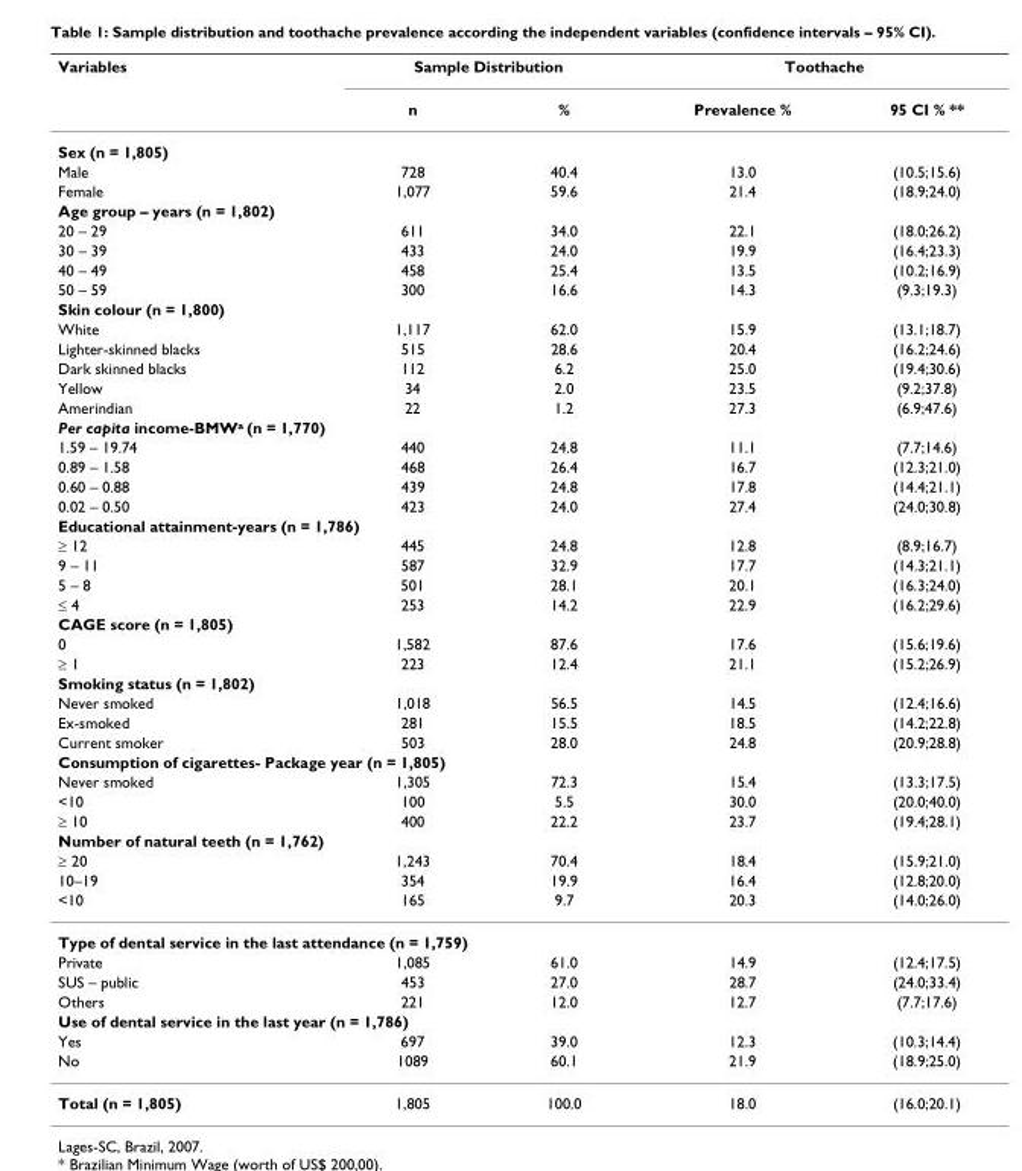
<table><thead><tr><td rowspan="2">Variables</td><td colspan="2">Sample Distribution</td><td colspan="2">Toothache</td></tr><tr><td>n</td><td>%</td><td>Prevalence %</td><td>95 CI % **</td></tr></thead><tbody><tr><td colspan="5">Sex (n = 1,805)</td></tr><tr><td>Male</td><td>728</td><td>40.4</td><td>13.0</td><td>(10.5;15.6)</td></tr><tr><td>Female</td><td>1,077</td><td>59.6</td><td>21.4</td><td>(18.9;24.0)</td></tr><tr><td colspan="5">Age group – years (n = 1,802)</td></tr><tr><td>20 – 29</td><td>611</td><td>34.0</td><td>22.1</td><td>(18.0;26.2)</td></tr><tr><td>30 – 39</td><td>433</td><td>24.0</td><td>19.9</td><td>(16.4;23.3)</td></tr><tr><td>40 – 49</td><td>458</td><td>25.4</td><td>13.5</td><td>(10.2;16.9)</td></tr><tr><td>50 – 59</td><td>300</td><td>16.6</td><td>14.3</td><td>(9.3;19.3)</td></tr><tr><td colspan="5">Skin colour (n = 1,800)</td></tr><tr><td>White</td><td>1,117</td><td>62.0</td><td>15.9</td><td>(13.1;18.7)</td></tr><tr><td>Lighter-skinned blacks</td><td>515</td><td>28.6</td><td>20.4</td><td>(16.2;24.6)</td></tr><tr><td>Dark skinned blacks</td><td>112</td><td>6.2</td><td>25.0</td><td>(19.4;30.6)</td></tr><tr><td>Yellow</td><td>34</td><td>2.0</td><td>23.5</td><td>(9.2;37.8)</td></tr><tr><td>Amerindian</td><td>22</td><td>1.2</td><td>27.3</td><td>(6.9;47.6)</td></tr><tr><td colspan="5">Per capita income-BMW<sup>a</sup> (n = 1,770)</td></tr><tr><td>1.59 – 19.74</td><td>440</td><td>24.8</td><td>11.1</td><td>(7.7;14.6)</td></tr><tr><td>0.89 – 1.58</td><td>468</td><td>26.4</td><td>16.7</td><td>(12.3;21.0)</td></tr><tr><td>0.60 – 0.88</td><td>439</td><td>24.8</td><td>17.8</td><td>(14.4;21.1)</td></tr><tr><td>0.02 – 0.50</td><td>423</td><td>24.0</td><td>27.4</td><td>(24.0;30.8)</td></tr><tr><td colspan="5">Educational attainment-years (n = 1,786)</td></tr><tr><td>≥ 12</td><td>445</td><td>24.8</td><td>12.8</td><td>(8.9;16.7)</td></tr><tr><td>9 – 11</td><td>587</td><td>32.9</td><td>17.7</td><td>(14.3;21.1)</td></tr><tr><td>5 – 8</td><td>501</td><td>28.1</td><td>20.1</td><td>(16.3;24.0)</td></tr><tr><td>≤ 4</td><td>253</td><td>14.2</td><td>22.9</td><td>(16.2;29.6)</td></tr><tr><td colspan="5">CAGE score (n = 1,805)</td></tr><tr><td>0</td><td>1,582</td><td>87.6</td><td>17.6</td><td>(15.6;19.6)</td></tr><tr><td>≥ 1</td><td>223</td><td>12.4</td><td>21.1</td><td>(15.2;26.9)</td></tr><tr><td colspan="5">Smoking status (n = 1,802)</td></tr><tr><td>Never smoked</td><td>1,018</td><td>56.5</td><td>14.5</td><td>(12.4;16.6)</td></tr><tr><td>Ex-smoked</td><td>281</td><td>15.5</td><td>18.5</td><td>(14.2;22.8)</td></tr><tr><td>Current smoker</td><td>503</td><td>28.0</td><td>24.8</td><td>(20.9;28.8)</td></tr><tr><td colspan="5">Consumption of cigarettes- Package year (n = 1,805)</td></tr><tr><td>Never smoked</td><td>1,305</td><td>72.3</td><td>15.4</td><td>(13.3;17.5)</td></tr><tr><td>&lt;10</td><td>100</td><td>5.5</td><td>30.0</td><td>(20.0;40.0)</td></tr><tr><td>≥ 10</td><td>400</td><td>22.2</td><td>23.7</td><td>(19.4;28.1)</td></tr><tr><td colspan="5">Number of natural teeth (n = 1,762)</td></tr><tr><td>≥ 20</td><td>1,243</td><td>70.4</td><td>18.4</td><td>(15.9;21.0)</td></tr><tr><td>10–19</td><td>354</td><td>19.9</td><td>16.4</td><td>(12.8;20.0)</td></tr><tr><td>&lt;10</td><td>165</td><td>9.7</td><td>20.3</td><td>(14.0;26.0)</td></tr><tr><td colspan="5">Type of dental service in the last attendance (n = 1,759)</td></tr><tr><td>Private</td><td>1,085</td><td>61.0</td><td>14.9</td><td>(12.4;17.5)</td></tr><tr><td>SUS – public</td><td>453</td><td>27.0</td><td>28.7</td><td>(24.0;33.4)</td></tr><tr><td>Others</td><td>221</td><td>12.0</td><td>12.7</td><td>(7.7;17.6)</td></tr><tr><td colspan="5">Use of dental service in the last year (n = 1,786)</td></tr><tr><td>Yes</td><td>697</td><td>39.0</td><td>12.3</td><td>(10.3;14.4)</td></tr><tr><td>No</td><td>1089</td><td>60.1</td><td>21.9</td><td>(18.9;25.0)</td></tr><tr><td>Total (n = 1,805)</td><td>1,805</td><td>100.0</td><td>18.0</td><td>(16.0;20.1)</td></tr></tbody></table>